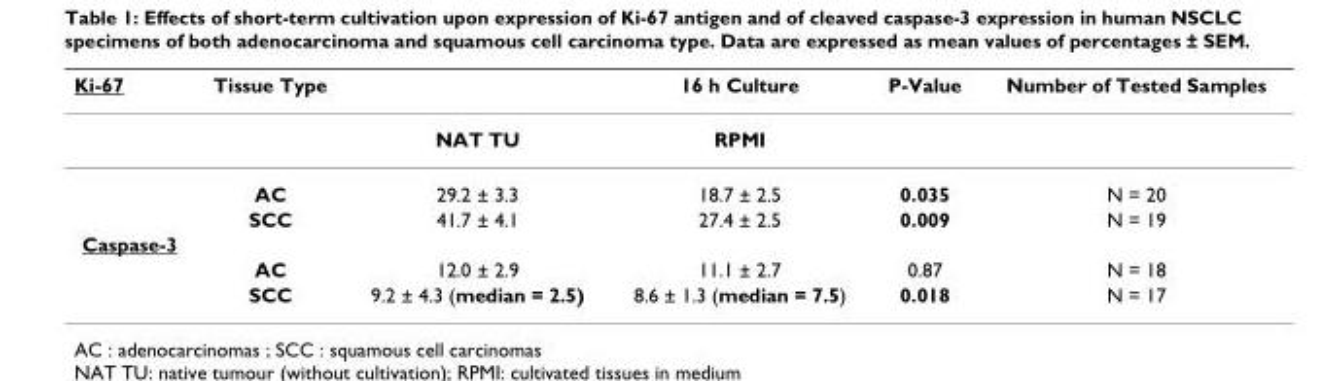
<table><thead><tr><td>Ki-67</td><td>Tissue Type</td><td></td><td>16 h Culture</td><td>P-Value</td><td>Number of Tested Samples</td></tr></thead><tbody><tr><td></td><td></td><td>NAT TU</td><td>RPMI</td><td></td><td></td></tr><tr><td></td><td>AC</td><td>29.2 ± 3.3</td><td>18.7 ± 2.5</td><td>0.035</td><td>N = 20</td></tr><tr><td></td><td>SCC</td><td>41.7 ± 4.1</td><td>27.4 ± 2.5</td><td>0.009</td><td>N = 19</td></tr><tr><td colspan="6">Caspase-3</td></tr><tr><td></td><td>AC</td><td>12.0 ± 2.9</td><td>11.1 ± 2.7</td><td>0.87</td><td>N = 18</td></tr><tr><td></td><td>SCC</td><td>9.2 ± 4.3 (median = 2.5)</td><td>8.6 ± 1.3 (median = 7.5)</td><td>0.018</td><td>N = 17</td></tr></tbody></table>